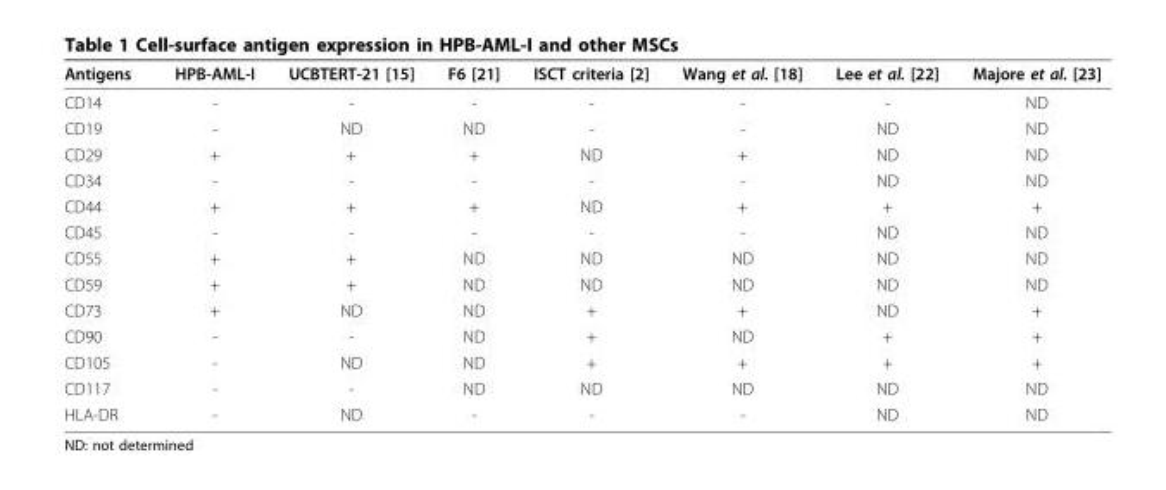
<table><thead><tr><td>Antigens</td><td>HPB-AML-I</td><td>UCBTERT-21 [15]</td><td>F6 [21]</td><td>ISCT criteria [2]</td><td>Wang et al. [18]</td><td>Lee et al. [22]</td><td>Majore et al. [23]</td></tr></thead><tbody><tr><td>CD14</td><td>-</td><td>-</td><td>-</td><td>-</td><td>-</td><td>-</td><td>ND</td></tr><tr><td>CD19</td><td>-</td><td>ND</td><td>ND</td><td>-</td><td>-</td><td>ND</td><td>ND</td></tr><tr><td>CD29</td><td>+</td><td>+</td><td>+</td><td>ND</td><td>+</td><td>ND</td><td>ND</td></tr><tr><td>CD34</td><td>-</td><td>-</td><td>-</td><td>-</td><td>-</td><td>ND</td><td>ND</td></tr><tr><td>CD44</td><td>+</td><td>+</td><td>+</td><td>ND</td><td>+</td><td>+</td><td>+</td></tr><tr><td>CD45</td><td>-</td><td>-</td><td>-</td><td>-</td><td>-</td><td>ND</td><td>ND</td></tr><tr><td>CD55</td><td>+</td><td>+</td><td>ND</td><td>ND</td><td>ND</td><td>ND</td><td>ND</td></tr><tr><td>CD59</td><td>+</td><td>+</td><td>ND</td><td>ND</td><td>ND</td><td>ND</td><td>ND</td></tr><tr><td>CD73</td><td>+</td><td>ND</td><td>ND</td><td>+</td><td>+</td><td>ND</td><td>+</td></tr><tr><td>CD90</td><td>-</td><td>-</td><td>ND</td><td>+</td><td>ND</td><td>+</td><td>+</td></tr><tr><td>CD105</td><td>-</td><td>ND</td><td>ND</td><td>+</td><td>+</td><td>+</td><td>+</td></tr><tr><td>CD117</td><td>-</td><td>-</td><td>ND</td><td>ND</td><td>ND</td><td>ND</td><td>ND</td></tr><tr><td>HLA-DR</td><td>-</td><td>ND</td><td>-</td><td>-</td><td>-</td><td>ND</td><td>ND</td></tr></tbody></table>